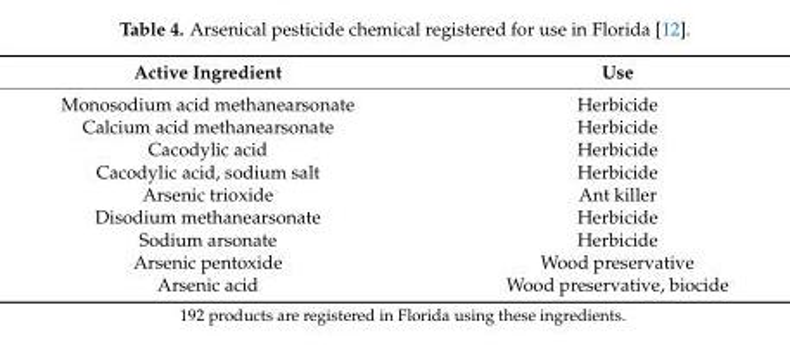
<table><thead><tr><td>Active Ingredient</td><td>Use</td></tr></thead><tbody><tr><td>Monosodium acid methanearsonate</td><td>Herbicide</td></tr><tr><td>Calcium acid methanearsonate</td><td>Herbicide</td></tr><tr><td>Cacodylic acid</td><td>Herbicide</td></tr><tr><td>Cacodylic acid, sodium salt</td><td>Herbicide</td></tr><tr><td>Arsenic trioxide</td><td>Ant killer</td></tr><tr><td>Disodium methanearsonate</td><td>Herbicide</td></tr><tr><td>Sodium arsonate</td><td>Herbicide</td></tr><tr><td>Arsenic pentoxide</td><td>Wood preservative</td></tr><tr><td>Arsenic acid</td><td>Wood preservative, biocide</td></tr></tbody></table>